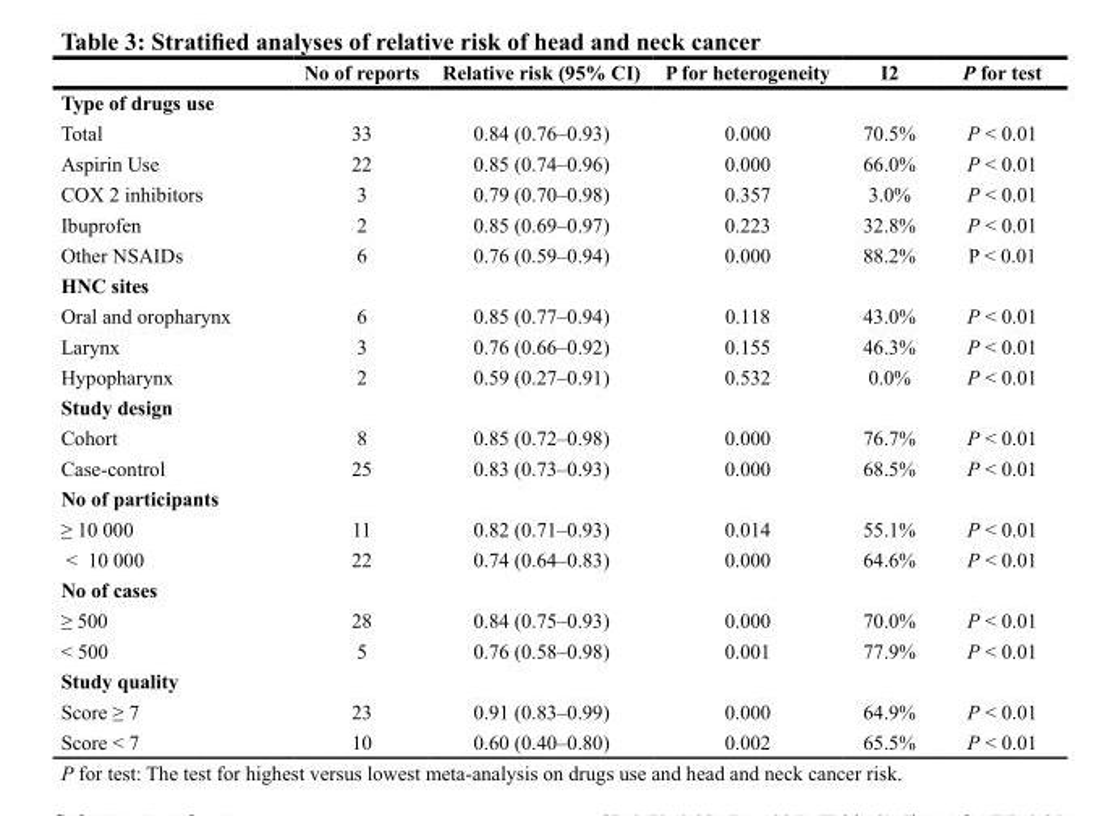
<table><thead><tr><td></td><td>No of reports</td><td>Relative risk (95% CI)</td><td>P for heterogeneity</td><td>I2</td><td>P for test</td></tr></thead><tbody><tr><td colspan="6">Type of drugs use</td></tr><tr><td>Total</td><td>33</td><td>0.84 (0.76–0.93)</td><td>0.000</td><td>70.5%</td><td>P &lt; 0.01</td></tr><tr><td>Aspirin Use</td><td>22</td><td>0.85 (0.74–0.96)</td><td>0.000</td><td>66.0%</td><td>P &lt; 0.01</td></tr><tr><td>COX 2 inhibitors</td><td>3</td><td>0.79 (0.70–0.98)</td><td>0.357</td><td>3.0%</td><td>P &lt; 0.01</td></tr><tr><td>Ibuprofen</td><td>2</td><td>0.85 (0.69–0.97)</td><td>0.223</td><td>32.8%</td><td>P &lt; 0.01</td></tr><tr><td>Other NSAIDs</td><td>6</td><td>0.76 (0.59–0.94)</td><td>0.000</td><td>88.2%</td><td>P &lt; 0.01</td></tr><tr><td colspan="6">HNC sites</td></tr><tr><td>Oral and oropharynx</td><td>6</td><td>0.85 (0.77–0.94)</td><td>0.118</td><td>43.0%</td><td>P &lt; 0.01</td></tr><tr><td>Larynx</td><td>3</td><td>0.76 (0.66–0.92)</td><td>0.155</td><td>46.3%</td><td>P &lt; 0.01</td></tr><tr><td>Hypopharynx</td><td>2</td><td>0.59 (0.27–0.91)</td><td>0.532</td><td>0.0%</td><td>P &lt; 0.01</td></tr><tr><td colspan="6">Study design</td></tr><tr><td>Cohort</td><td>8</td><td>0.85 (0.72–0.98)</td><td>0.000</td><td>76.7%</td><td>P &lt; 0.01</td></tr><tr><td>Case-control</td><td>25</td><td>0.83 (0.73–0.93)</td><td>0.000</td><td>68.5%</td><td>P &lt; 0.01</td></tr><tr><td colspan="6">No of participants</td></tr><tr><td>≥ 10 000</td><td>11</td><td>0.82 (0.71–0.93)</td><td>0.014</td><td>55.1%</td><td>P &lt; 0.01</td></tr><tr><td>&lt; 10 000</td><td>22</td><td>0.74 (0.64–0.83)</td><td>0.000</td><td>64.6%</td><td>P &lt; 0.01</td></tr><tr><td colspan="6">No of cases</td></tr><tr><td>≥ 500</td><td>28</td><td>0.84 (0.75–0.93)</td><td>0.000</td><td>70.0%</td><td>P &lt; 0.01</td></tr><tr><td>&lt; 500</td><td>5</td><td>0.76 (0.58–0.98)</td><td>0.001</td><td>77.9%</td><td>P &lt; 0.01</td></tr><tr><td colspan="6">Study quality</td></tr><tr><td>Score ≥ 7</td><td>23</td><td>0.91 (0.83–0.99)</td><td>0.000</td><td>64.9%</td><td>P &lt; 0.01</td></tr><tr><td>Score &lt; 7</td><td>10</td><td>0.60 (0.40–0.80)</td><td>0.002</td><td>65.5%</td><td>P &lt; 0.01</td></tr></tbody></table>